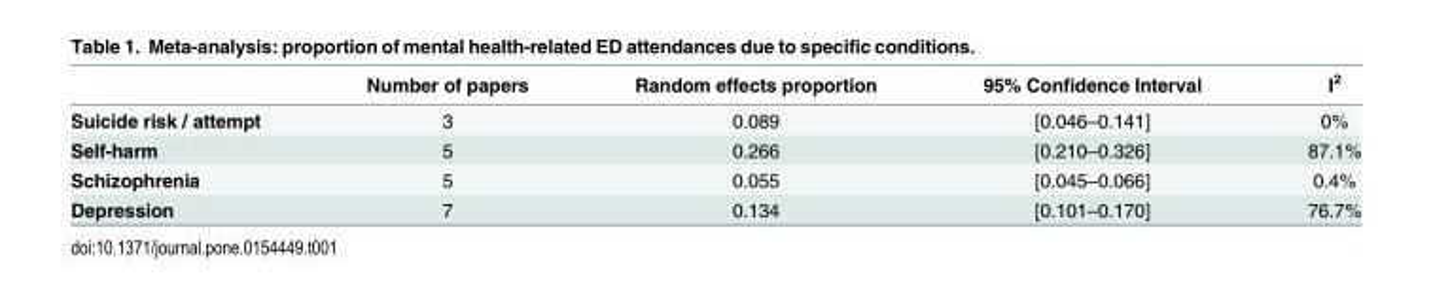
<table><thead><tr><td></td><td>Number of papers</td><td>Random effects proportion</td><td>95% Confidence Interval</td><td>I<sup>2</sup></td></tr></thead><tbody><tr><td>Suicide risk / attempt</td><td>3</td><td>0.089</td><td>[0.046–0.141]</td><td>0%</td></tr><tr><td>Self-harm</td><td>5</td><td>0.266</td><td>[0.210–0.326]</td><td>87.1%</td></tr><tr><td>Schizophrenia</td><td>5</td><td>0.055</td><td>[0.045–0.066]</td><td>0.4%</td></tr><tr><td>Depression</td><td>7</td><td>0.134</td><td>[0.101–0.170]</td><td>76.7%</td></tr></tbody></table>